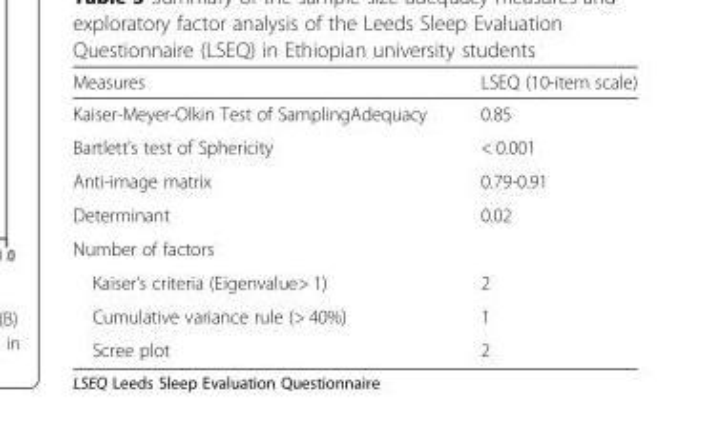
<table><thead><tr><td>Measures</td><td>LSEQ (10-item scale)</td></tr></thead><tbody><tr><td>Kaiser-Meyer-Olkin Test of SamplingAdequacy</td><td>0.85</td></tr><tr><td>Bartlett’s test of Sphericity</td><td>&lt; 0.001</td></tr><tr><td>Anti-image matrix</td><td>0.79-0.91</td></tr><tr><td>Determinant</td><td>0.02</td></tr><tr><td colspan="2">Number of factors</td></tr><tr><td>Kaiser’s criteria (Eigenvalue&gt; 1)</td><td>2</td></tr><tr><td>Cumulative variance rule (&gt; 40%)</td><td>1</td></tr><tr><td>Scree plot</td><td>2</td></tr></tbody></table>